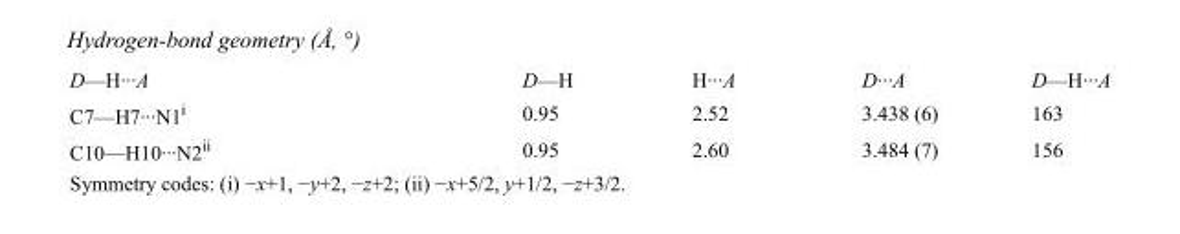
<table><tbody><tr><td>D—H···A</td><td>D—H</td><td>H···A</td><td>D···A</td><td>D—H···A</td></tr><tr><td>C7—H7···N1<sup>i</sup></td><td>0.95</td><td>2.52</td><td>3.438 (6)</td><td>163</td></tr><tr><td>C10—H10···N2<sup>ii</sup></td><td>0.95</td><td>2.60</td><td>3.484 (7)</td><td>156</td></tr></tbody></table>